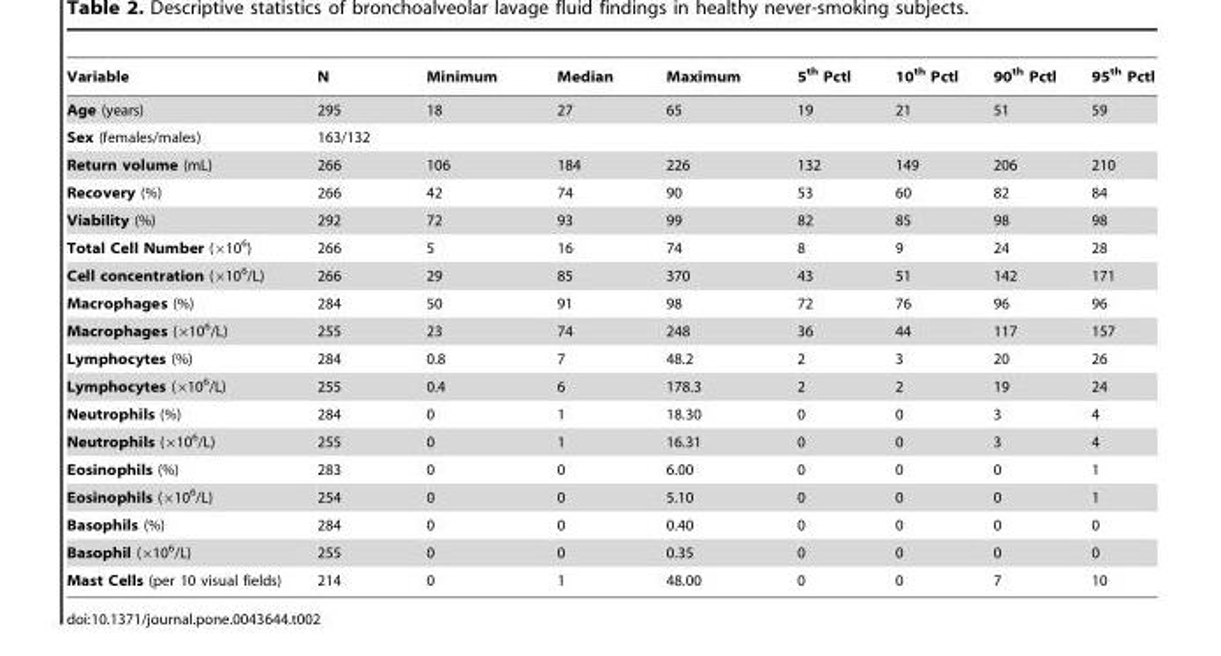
<table><thead><tr><td>Variable</td><td>N</td><td>Minimum</td><td>Median</td><td>Maximum</td><td>5<sup>th</sup> Pctl</td><td>10<sup>th</sup> Pctl</td><td>90<sup>th</sup> Pctl</td><td>95<sup>th</sup> Pctl</td></tr></thead><tbody><tr><td>Age (years)</td><td>295</td><td>18</td><td>27</td><td>65</td><td>19</td><td>21</td><td>51</td><td>59</td></tr><tr><td>Sex (females/males)</td><td>163/132</td><td></td><td></td><td></td><td></td><td></td><td></td><td></td></tr><tr><td>Return volume (mL)</td><td>266</td><td>106</td><td>184</td><td>226</td><td>132</td><td>149</td><td>206</td><td>210</td></tr><tr><td>Recovery (%)</td><td>266</td><td>42</td><td>74</td><td>90</td><td>53</td><td>60</td><td>82</td><td>84</td></tr><tr><td>Viability (%)</td><td>292</td><td>72</td><td>93</td><td>99</td><td>82</td><td>85</td><td>98</td><td>98</td></tr><tr><td>Total Cell Number (×10<sup>6</sup>)</td><td>266</td><td>5</td><td>16</td><td>74</td><td>8</td><td>9</td><td>24</td><td>28</td></tr><tr><td>Cell concentration (×10<sup>6</sup>/L)</td><td>266</td><td>29</td><td>85</td><td>370</td><td>43</td><td>51</td><td>142</td><td>171</td></tr><tr><td>Macrophages (%)</td><td>284</td><td>50</td><td>91</td><td>98</td><td>72</td><td>76</td><td>96</td><td>96</td></tr><tr><td>Macrophages (×10<sup>6</sup>/L)</td><td>255</td><td>23</td><td>74</td><td>248</td><td>36</td><td>44</td><td>117</td><td>157</td></tr><tr><td>Lymphocytes (%)</td><td>284</td><td>0.8</td><td>7</td><td>48.2</td><td>2</td><td>3</td><td>20</td><td>26</td></tr><tr><td>Lymphocytes (×10<sup>6</sup>/L)</td><td>255</td><td>0.4</td><td>6</td><td>178.3</td><td>2</td><td>2</td><td>19</td><td>24</td></tr><tr><td>Neutrophils (%)</td><td>284</td><td>0</td><td>1</td><td>18.30</td><td>0</td><td>0</td><td>3</td><td>4</td></tr><tr><td>Neutrophils (×10<sup>6</sup>/L)</td><td>255</td><td>0</td><td>1</td><td>16.31</td><td>0</td><td>0</td><td>3</td><td>4</td></tr><tr><td>Eosinophils (%)</td><td>283</td><td>0</td><td>0</td><td>6.00</td><td>0</td><td>0</td><td>0</td><td>1</td></tr><tr><td>Eosinophils (×10<sup>6</sup>/L)</td><td>254</td><td>0</td><td>0</td><td>5.10</td><td>0</td><td>0</td><td>0</td><td>1</td></tr><tr><td>Basophils (%)</td><td>284</td><td>0</td><td>0</td><td>0.40</td><td>0</td><td>0</td><td>0</td><td>0</td></tr><tr><td>Basophil (×10<sup>6</sup>/L)</td><td>255</td><td>0</td><td>0</td><td>0.35</td><td>0</td><td>0</td><td>0</td><td>0</td></tr><tr><td>Mast Cells (per 10 visual fields)</td><td>214</td><td>0</td><td>1</td><td>48.00</td><td>0</td><td>0</td><td>7</td><td>10</td></tr></tbody></table>